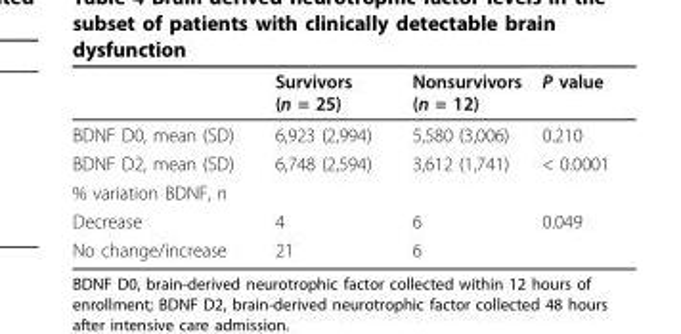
<table><thead><tr><td></td><td>Survivors (n = 25)</td><td>Nonsurvivors (n = 12)</td><td>P value</td></tr></thead><tbody><tr><td>BDNF D0, mean (SD)</td><td>6,923 (2,994)</td><td>5,580 (3,006)</td><td>0.210</td></tr><tr><td>BDNF D2, mean (SD)</td><td>6,748 (2,594)</td><td>3,612 (1,741)</td><td>&lt; 0.0001</td></tr><tr><td colspan="4">% variation BDNF, n</td></tr><tr><td>Decrease</td><td>4</td><td>6</td><td>0.049</td></tr><tr><td>No change/increase</td><td>21</td><td>6</td><td></td></tr></tbody></table>